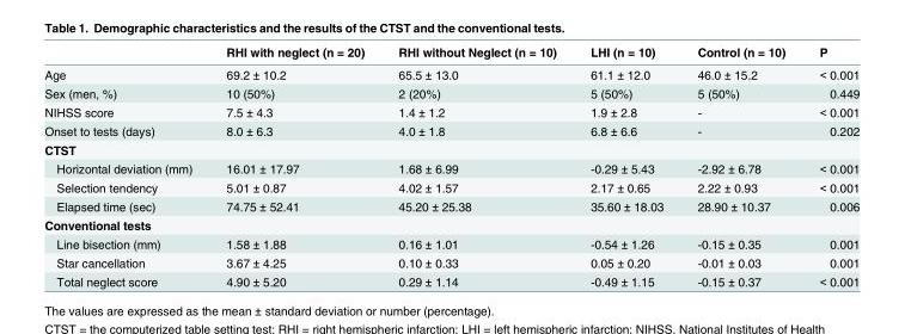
<table><thead><tr><td></td><td>RHI with neglect (n = 20)</td><td>RHI without Neglect (n = 10)</td><td>LHI (n = 10)</td><td>Control (n = 10)</td><td>P</td></tr></thead><tbody><tr><td>Age</td><td>69.2 ± 10.2</td><td>65.5 ± 13.0</td><td>61.1 ± 12.0</td><td>46.0 ± 15.2</td><td>&lt; 0.001</td></tr><tr><td>Sex (men, %)</td><td>10 (50%)</td><td>2 (20%)</td><td>5 (50%)</td><td>5 (50%)</td><td>0.449</td></tr><tr><td>NIHSS score</td><td>7.5 ± 4.3</td><td>1.4 ± 1.2</td><td>1.9 ± 2.8</td><td>-</td><td>&lt; 0.001</td></tr><tr><td>Onset to tests (days)</td><td>8.0 ± 6.3</td><td>4.0 ± 1.8</td><td>6.8 ± 6.6</td><td>-</td><td>0.202</td></tr><tr><td colspan="6">CTST</td></tr><tr><td>Horizontal deviation (mm)</td><td>16.01 ± 17.97</td><td>1.68 ± 6.99</td><td>-0.29 ± 5.43</td><td>-2.92 ± 6.78</td><td>&lt; 0.001</td></tr><tr><td>Selection tendency</td><td>5.01 ± 0.87</td><td>4.02 ± 1.57</td><td>2.17 ± 0.65</td><td>2.22 ± 0.93</td><td>&lt; 0.001</td></tr><tr><td>Elapsed time (sec)</td><td>74.75 ± 52.41</td><td>45.20 ± 25.38</td><td>35.60 ± 18.03</td><td>28.90 ± 10.37</td><td>0.006</td></tr><tr><td colspan="6">Conventional tests</td></tr><tr><td>Line bisection (mm)</td><td>1.58 ± 1.88</td><td>0.16 ± 1.01</td><td>-0.54 ± 1.26</td><td>-0.15 ± 0.35</td><td>0.001</td></tr><tr><td>Star cancellation</td><td>3.67 ± 4.25</td><td>0.10 ± 0.33</td><td>0.05 ± 0.20</td><td>-0.01 ± 0.03</td><td>0.001</td></tr><tr><td>Total neglect score</td><td>4.90 ± 5.20</td><td>0.29 ± 1.14</td><td>-0.49 ± 1.15</td><td>-0.15 ± 0.37</td><td>&lt; 0.001</td></tr></tbody></table>